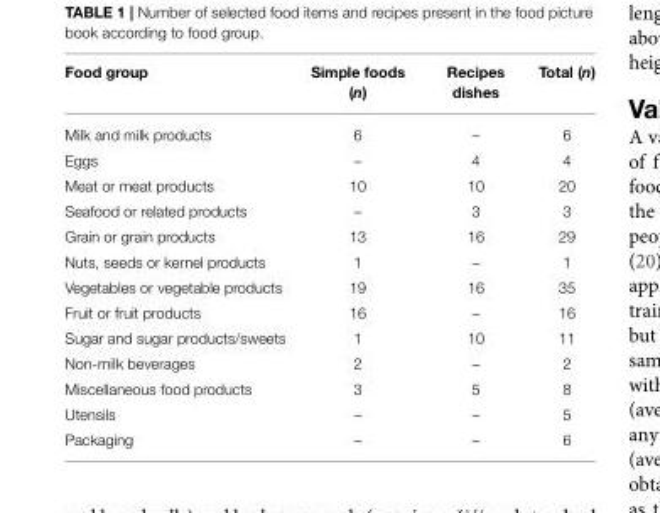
<table><thead><tr><td>Food group</td><td>Simple foods (n)</td><td>Recipes dishes</td><td>Total (n)</td></tr></thead><tbody><tr><td>Milk and milk products</td><td>6</td><td>–</td><td>6</td></tr><tr><td>Eggs</td><td>–</td><td>4</td><td>4</td></tr><tr><td>Meat or meat products</td><td>10</td><td>10</td><td>20</td></tr><tr><td>Seafood or related products</td><td>–</td><td>3</td><td>3</td></tr><tr><td>Grain or grain products</td><td>13</td><td>16</td><td>29</td></tr><tr><td>Nuts, seeds or kernel products</td><td>1</td><td>–</td><td>1</td></tr><tr><td>Vegetables or vegetable products</td><td>19</td><td>16</td><td>35</td></tr><tr><td>Fruit or fruit products</td><td>16</td><td>–</td><td>16</td></tr><tr><td>Sugar and sugar products/sweets</td><td>1</td><td>10</td><td>11</td></tr><tr><td>Non-milk beverages</td><td>2</td><td>–</td><td>2</td></tr><tr><td>Miscellaneous food products</td><td>3</td><td>5</td><td>8</td></tr><tr><td>Utensils</td><td>–</td><td>–</td><td>5</td></tr><tr><td>Packaging</td><td>–</td><td>–</td><td>6</td></tr></tbody></table>